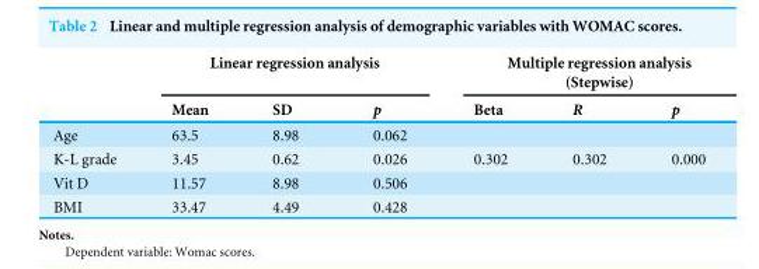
<table><thead><tr><td rowspan="2"></td><td colspan="3">Linear regression analysis</td><td colspan="3">Multiple regression analysis (Stepwise)</td></tr><tr><td>Mean</td><td>SD</td><td>p</td><td>Beta</td><td>R</td><td>p</td></tr></thead><tbody><tr><td>Age</td><td>63.5</td><td>8.98</td><td>0.062</td><td></td><td></td><td></td></tr><tr><td>K-L grade</td><td>3.45</td><td>0.62</td><td>0.026</td><td>0.302</td><td>0.302</td><td>0.000</td></tr><tr><td>Vit D</td><td>11.57</td><td>8.98</td><td>0.506</td><td></td><td></td><td></td></tr><tr><td>BMI</td><td>33.47</td><td>4.49</td><td>0.428</td><td></td><td></td><td></td></tr></tbody></table>